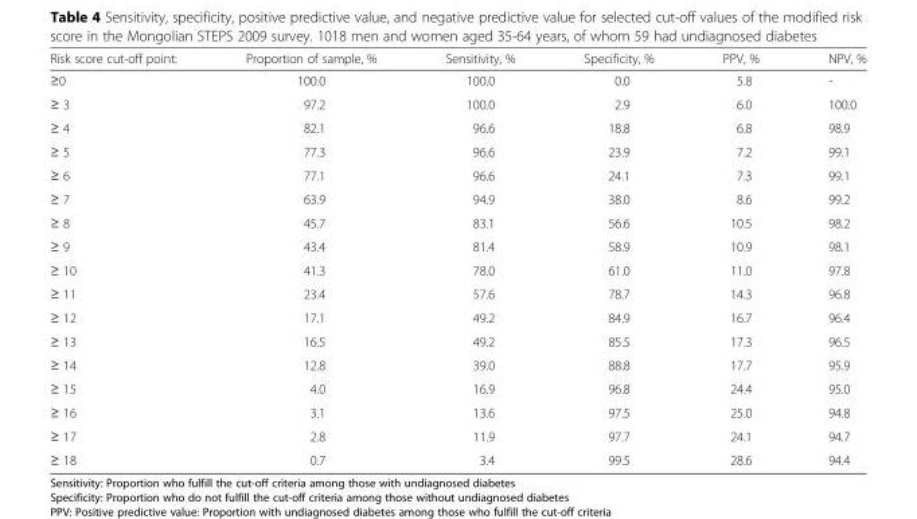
<table><thead><tr><td>Risk score cut-off point:</td><td>Proportion of sample, %</td><td>Sensitivity, %</td><td>Specificity, %</td><td>PPV, %</td><td>NPV, %</td></tr></thead><tbody><tr><td>≥0</td><td>100.0</td><td>100.0</td><td>0.0</td><td>5.8</td><td>-</td></tr><tr><td>≥ 3</td><td>97.2</td><td>100.0</td><td>2.9</td><td>6.0</td><td>100.0</td></tr><tr><td>≥ 4</td><td>82.1</td><td>96.6</td><td>18.8</td><td>6.8</td><td>98.9</td></tr><tr><td>≥ 5</td><td>77.3</td><td>96.6</td><td>23.9</td><td>7.2</td><td>99.1</td></tr><tr><td>≥ 6</td><td>77.1</td><td>96.6</td><td>24.1</td><td>7.3</td><td>99.1</td></tr><tr><td>≥ 7</td><td>63.9</td><td>94.9</td><td>38.0</td><td>8.6</td><td>99.2</td></tr><tr><td>≥ 8</td><td>45.7</td><td>83.1</td><td>56.6</td><td>10.5</td><td>98.2</td></tr><tr><td>≥ 9</td><td>43.4</td><td>81.4</td><td>58.9</td><td>10.9</td><td>98.1</td></tr><tr><td>≥ 10</td><td>41.3</td><td>78.0</td><td>61.0</td><td>11.0</td><td>97.8</td></tr><tr><td>≥ 11</td><td>23.4</td><td>57.6</td><td>78.7</td><td>14.3</td><td>96.8</td></tr><tr><td>≥ 12</td><td>17.1</td><td>49.2</td><td>84.9</td><td>16.7</td><td>96.4</td></tr><tr><td>≥ 13</td><td>16.5</td><td>49.2</td><td>85.5</td><td>17.3</td><td>96.5</td></tr><tr><td>≥ 14</td><td>12.8</td><td>39.0</td><td>88.8</td><td>17.7</td><td>95.9</td></tr><tr><td>≥ 15</td><td>4.0</td><td>16.9</td><td>96.8</td><td>24.4</td><td>95.0</td></tr><tr><td>≥ 16</td><td>3.1</td><td>13.6</td><td>97.5</td><td>25.0</td><td>94.8</td></tr><tr><td>≥ 17</td><td>2.8</td><td>11.9</td><td>97.7</td><td>24.1</td><td>94.7</td></tr><tr><td>≥ 18</td><td>0.7</td><td>3.4</td><td>99.5</td><td>28.6</td><td>94.4</td></tr></tbody></table>